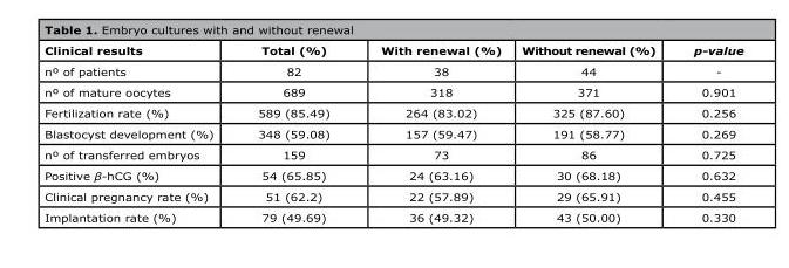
<table><thead><tr><td>Clinical results</td><td>Total (%)</td><td>With renewal (%)</td><td>Without renewal (%)</td><td>p-value</td></tr></thead><tbody><tr><td>nº of patients</td><td>82</td><td>38</td><td>44</td><td>-</td></tr><tr><td>nº of mature oocytes</td><td>689</td><td>318</td><td>371</td><td>0.901</td></tr><tr><td>Fertilization rate (%)</td><td>589 (85.49)</td><td>264 (83.02)</td><td>325 (87.60)</td><td>0.256</td></tr><tr><td>Blastocyst development (%)</td><td>348 (59.08)</td><td>157 (59.47)</td><td>191 (58.77)</td><td>0.269</td></tr><tr><td>nº of transferred embryos</td><td>159</td><td>73</td><td>86</td><td>0.725</td></tr><tr><td>Positive β-hCG (%)</td><td>54 (65.85)</td><td>24 (63.16)</td><td>30 (68.18)</td><td>0.632</td></tr><tr><td>Clinical pregnancy rate (%)</td><td>51 (62.2)</td><td>22 (57.89)</td><td>29 (65.91)</td><td>0.455</td></tr><tr><td>Implantation rate (%)</td><td>79 (49.69)</td><td>36 (49.32)</td><td>43 (50.00)</td><td>0.330</td></tr></tbody></table>